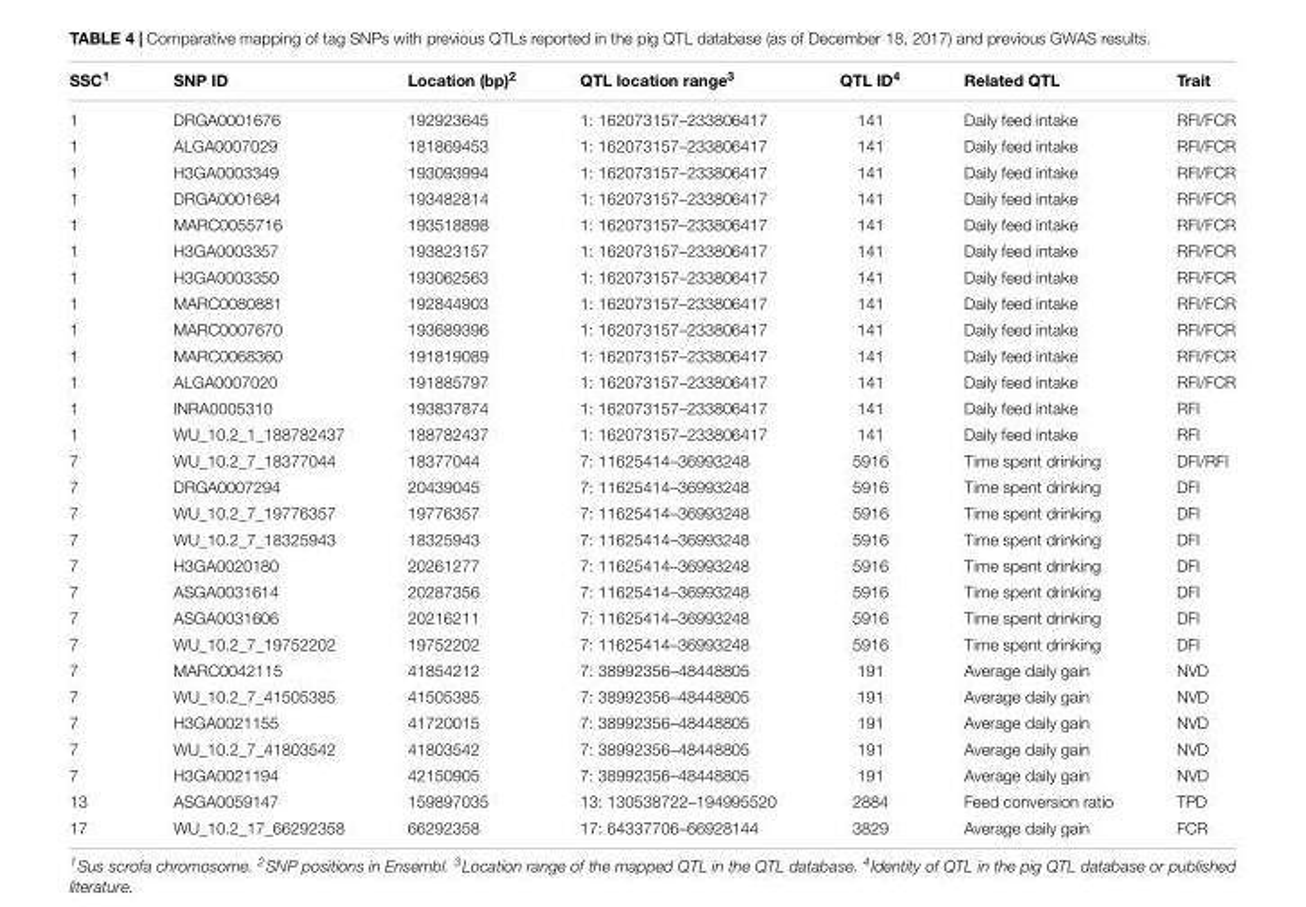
<table><thead><tr><td>SSC<sup>1</sup></td><td>SNP ID</td><td>Location (bp)<sup>2</sup></td><td>QTL location range<sup>3</sup></td><td>QTL ID<sup>4</sup></td><td>Related QTL</td><td>Trait</td></tr></thead><tbody><tr><td>1</td><td>DRGA0001676</td><td>192923645</td><td>1: 162073157–233806417</td><td>141</td><td>Daily feed intake</td><td>RFI/FCR</td></tr><tr><td>1</td><td>ALGA0007029</td><td>181869453</td><td>1: 162073157–233806417</td><td>141</td><td>Daily feed intake</td><td>RFI/FCR</td></tr><tr><td>1</td><td>H3GA0003349</td><td>193093994</td><td>1: 162073157–233806417</td><td>141</td><td>Daily feed intake</td><td>RFI/FCR</td></tr><tr><td>1</td><td>DRGA0001684</td><td>193482814</td><td>1: 162073157–233806417</td><td>141</td><td>Daily feed intake</td><td>RFI/FCR</td></tr><tr><td>1</td><td>MARC0055716</td><td>193518898</td><td>1: 162073157–233806417</td><td>141</td><td>Daily feed intake</td><td>RFI/FCR</td></tr><tr><td>1</td><td>H3GA0003357</td><td>193823157</td><td>1: 162073157–233806417</td><td>141</td><td>Daily feed intake</td><td>RFI/FCR</td></tr><tr><td>1</td><td>H3GA0003350</td><td>193062563</td><td>1: 162073157–233806417</td><td>141</td><td>Daily feed intake</td><td>RFI/FCR</td></tr><tr><td>1</td><td>MARC0080881</td><td>192844903</td><td>1: 162073157–233806417</td><td>141</td><td>Daily feed intake</td><td>RFI/FCR</td></tr><tr><td>1</td><td>MARC0007670</td><td>193689396</td><td>1: 162073157–233806417</td><td>141</td><td>Daily feed intake</td><td>RFI/FCR</td></tr><tr><td>1</td><td>MARC0068360</td><td>191819089</td><td>1: 162073157–233806417</td><td>141</td><td>Daily feed intake</td><td>RFI/FCR</td></tr><tr><td>1</td><td>ALGA0007020</td><td>191885797</td><td>1: 162073157–233806417</td><td>141</td><td>Daily feed intake</td><td>RFI/FCR</td></tr><tr><td>1</td><td>INRA0005310</td><td>193837874</td><td>1: 162073157–233806417</td><td>141</td><td>Daily feed intake</td><td>RFI</td></tr><tr><td>1</td><td>WU_10.2_1_188782437</td><td>188782437</td><td>1: 162073157–233806417</td><td>141</td><td>Daily feed intake</td><td>RFI</td></tr><tr><td>7</td><td>WU_10.2_7_18377044</td><td>18377044</td><td>7: 11625414–36993248</td><td>5916</td><td>Time spent drinking</td><td>DFI/RFI</td></tr><tr><td>7</td><td>DRGA0007294</td><td>20439045</td><td>7: 11625414–36993248</td><td>5916</td><td>Time spent drinking</td><td>DFI</td></tr><tr><td>7</td><td>WU_10.2_7_19776357</td><td>19776357</td><td>7: 11625414–36993248</td><td>5916</td><td>Time spent drinking</td><td>DFI</td></tr><tr><td>7</td><td>WU_10.2_7_18325943</td><td>18325943</td><td>7: 11625414–36993248</td><td>5916</td><td>Time spent drinking</td><td>DFI</td></tr><tr><td>7</td><td>H3GA0020180</td><td>20261277</td><td>7: 11625414–36993248</td><td>5916</td><td>Time spent drinking</td><td>DFI</td></tr><tr><td>7</td><td>ASGA0031614</td><td>20287356</td><td>7: 11625414–36993248</td><td>5916</td><td>Time spent drinking</td><td>DFI</td></tr><tr><td>7</td><td>ASGA0031606</td><td>20216211</td><td>7: 11625414–36993248</td><td>5916</td><td>Time spent drinking</td><td>DFI</td></tr><tr><td>7</td><td>WU_10.2_7_19752202</td><td>19752202</td><td>7: 11625414–36993248</td><td>5916</td><td>Time spent drinking</td><td>DFI</td></tr><tr><td>7</td><td>MARC0042115</td><td>41854212</td><td>7: 38992356–48448805</td><td>191</td><td>Average daily gain</td><td>NVD</td></tr><tr><td>7</td><td>WU_10.2_7_41505385</td><td>41505385</td><td>7: 38992356–48448805</td><td>191</td><td>Average daily gain</td><td>NVD</td></tr><tr><td>7</td><td>H3GA0021155</td><td>41720015</td><td>7: 38992356–48448805</td><td>191</td><td>Average daily gain</td><td>NVD</td></tr><tr><td>7</td><td>WU_10.2_7_41803542</td><td>41803542</td><td>7: 38992356–48448805</td><td>191</td><td>Average daily gain</td><td>NVD</td></tr><tr><td>7</td><td>H3GA0021194</td><td>42150905</td><td>7: 38992356–48448805</td><td>191</td><td>Average daily gain</td><td>NVD</td></tr><tr><td>13</td><td>ASGA0059147</td><td>159897035</td><td>13: 130538722–194995520</td><td>2884</td><td>Feed conversion ratio</td><td>TPD</td></tr><tr><td>17</td><td>WU_10.2_17_66292358</td><td>66292358</td><td>17: 64337706–66928144</td><td>3829</td><td>Average daily gain</td><td>FCR</td></tr></tbody></table>